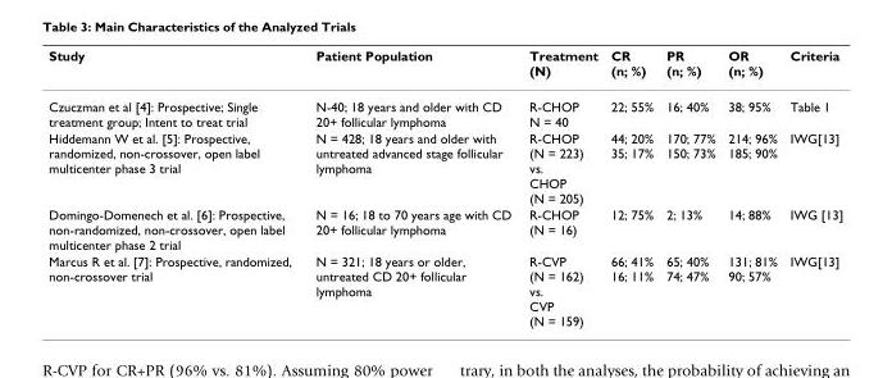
<table><thead><tr><td>Study</td><td>Patient Population</td><td>Treatment (N)</td><td>CR (n; %)</td><td>PR (n; %)</td><td>OR (n; %)</td><td>Criteria</td></tr></thead><tbody><tr><td>Czuczman et al [4]: Prospective; Single treatment group; Intent to treat trial</td><td>N-40; 18 years and older with CD 20+ follicular lymphoma</td><td>R-CHOP N = 40</td><td>22; 55%</td><td>16; 40%</td><td>38; 95%</td><td>Table 1</td></tr><tr><td>Hiddemann W et al. [5]: Prospective, randomized, non-crossover, open label multicenter phase 3 trial</td><td>N = 428; 18 years and older with untreated advanced stage follicular lymphoma</td><td>R-CHOP (N = 223) vs. CHOP (N = 205)</td><td>44; 20% 35; 17%</td><td>170; 77% 150; 73%</td><td>214; 96% 185; 90%</td><td>IWG[13]</td></tr><tr><td>Domingo-Domenech et al. [6]: Prospective, non-randomized, non-crossover, open label multicenter phase 2 trial</td><td>N = 16; 18 to 70 years age with CD 20+ follicular lymphoma</td><td>R-CHOP (N = 16)</td><td>12; 75%</td><td>2; 13%</td><td>14; 88%</td><td>IWG [13]</td></tr><tr><td>Marcus R et al. [7]: Prospective, randomized, non-crossover trial</td><td>N = 321; 18 years or older, untreated CD 20+ follicular lymphoma</td><td>R-CVP (N = 162) vs. CVP (N = 159)</td><td>66; 41% 16; 11%</td><td>65; 40% 74; 47%</td><td>131; 81% 90; 57%</td><td>IWG[13]</td></tr></tbody></table>